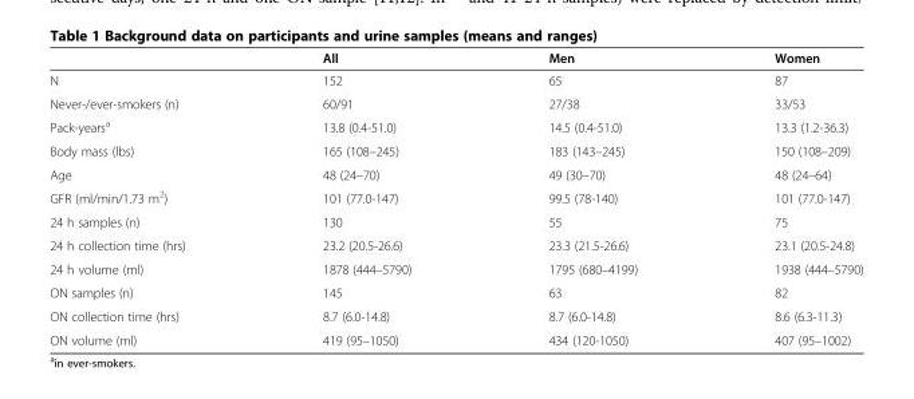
<table><thead><tr><td></td><td>All</td><td>Men</td><td>Women</td></tr></thead><tbody><tr><td>N</td><td>152</td><td>65</td><td>87</td></tr><tr><td>Never-/ever-smokers (n)</td><td>60/91</td><td>27/38</td><td>33/53</td></tr><tr><td>Pack-years<sup>a</sup></td><td>13.8 (0.4-51.0)</td><td>14.5 (0.4-51.0)</td><td>13.3 (1.2-36.3)</td></tr><tr><td>Body mass (lbs)</td><td>165 (108–245)</td><td>183 (143–245)</td><td>150 (108–209)</td></tr><tr><td>Age</td><td>48 (24–70)</td><td>49 (30–70)</td><td>48 (24–64)</td></tr><tr><td>GFR (ml/min/1.73 m<sup>2</sup>)</td><td>101 (77.0-147)</td><td>99.5 (78-140)</td><td>101 (77.0-147)</td></tr><tr><td>24 h samples (n)</td><td>130</td><td>55</td><td>75</td></tr><tr><td>24 h collection time (hrs)</td><td>23.2 (20.5-26.6)</td><td>23.3 (21.5-26.6)</td><td>23.1 (20.5-24.8)</td></tr><tr><td>24 h volume (ml)</td><td>1878 (444–5790)</td><td>1795 (680–4199)</td><td>1938 (444–5790)</td></tr><tr><td>ON samples (n)</td><td>145</td><td>63</td><td>82</td></tr><tr><td>ON collection time (hrs)</td><td>8.7 (6.0-14.8)</td><td>8.7 (6.0-14.8)</td><td>8.6 (6.3-11.3)</td></tr><tr><td>ON volume (ml)</td><td>419 (95–1050)</td><td>434 (120-1050)</td><td>407 (95–1002)</td></tr></tbody></table>